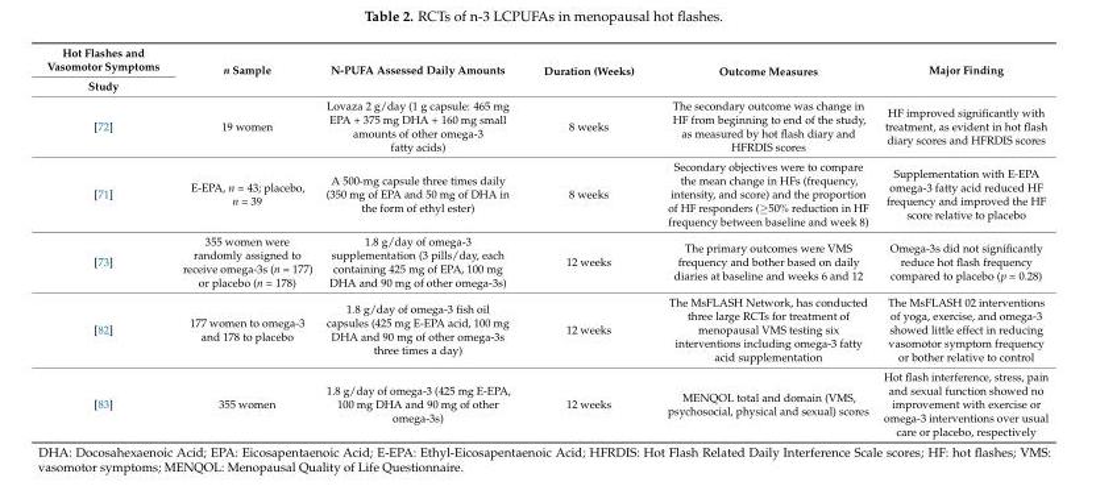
<table><thead><tr><td rowspan="2">Hot Flashes and Vasomotor Symptoms Study</td><td rowspan="2">n Sample</td><td rowspan="2">N-PUFA Assessed Daily Amounts</td><td rowspan="2">Duration (Weeks)</td><td rowspan="2">Outcome Measures</td><td rowspan="2">Major Finding</td></tr><tr></tr></thead><tbody><tr><td>[72]</td><td>19 women</td><td>Lovaza 2 g/day (1 g capsule: 465 mg EPA + 375 mg DHA + 160 mg small amounts of other omega-3 fatty acids)</td><td>8 weeks</td><td>The secondary outcome was change in HF from beginning to end of the study, as measured by hot flash diary and HFRDIS scores</td><td>HF improved significantly with treatment, as evident in hot flash diary scores and HFRDIS scores</td></tr><tr><td>[71]</td><td>E-EPA, n = 43; placebo, n = 39</td><td>A 500-mg capsule three times daily (350 mg of EPA and 50 mg of DHA in the form of ethyl ester)</td><td>8 weeks</td><td>Secondary objectives were to compare the mean change in HFs (frequency, intensity, and score) and the proportion of HF responders (≥50% reduction in HF frequency between baseline and week 8)</td><td>Supplementation with E-EPA omega-3 fatty acid reduced HF frequency and improved the HF score relative to placebo</td></tr><tr><td>[73]</td><td>355 women were randomly assigned to receive omega-3s (n = 177) or placebo (n = 178)</td><td>1.8 g/day of omega-3 supplementation (3 pills/day, each containing 425 mg of EPA, 100 mg DHA and 90 mg of other omega-3s)</td><td>12 weeks</td><td>The primary outcomes were VMS frequency and bother based on daily diaries at baseline and weeks 6 and 12</td><td>Omega-3s did not significantly reduce hot flash frequency compared to placebo (p = 0.28)</td></tr><tr><td>[82]</td><td>177 women to omega-3 and 178 to placebo</td><td>1.8 g/day of omega-3 fish oil capsules (425 mg E-EPA acid, 100 mg DHA and 90 mg of other omega-3s three times a day)</td><td>12 weeks</td><td>The MsFLASH Network, has conducted three large RCTs for treatment of menopausal VMS testing six interventions including omega-3 fatty acid supplementation</td><td>The MsFLASH 02 interventions of yoga, exercise, and omega-3 showed little effect in reducing vasomotor symptom frequency or bother relative to control</td></tr><tr><td>[83]</td><td>355 women</td><td>1.8 g/day of omega-3 (425 mg E-EPA, 100 mg DHA and 90 mg of other omega-3s)</td><td>12 weeks</td><td>MENQOL total and domain (VMS, psychosocial, physical and sexual) scores</td><td>Hot flash interference, stress, pain and sexual function showed no improvement with exercise or omega-3 interventions over usual care or placebo, respectively</td></tr></tbody></table>